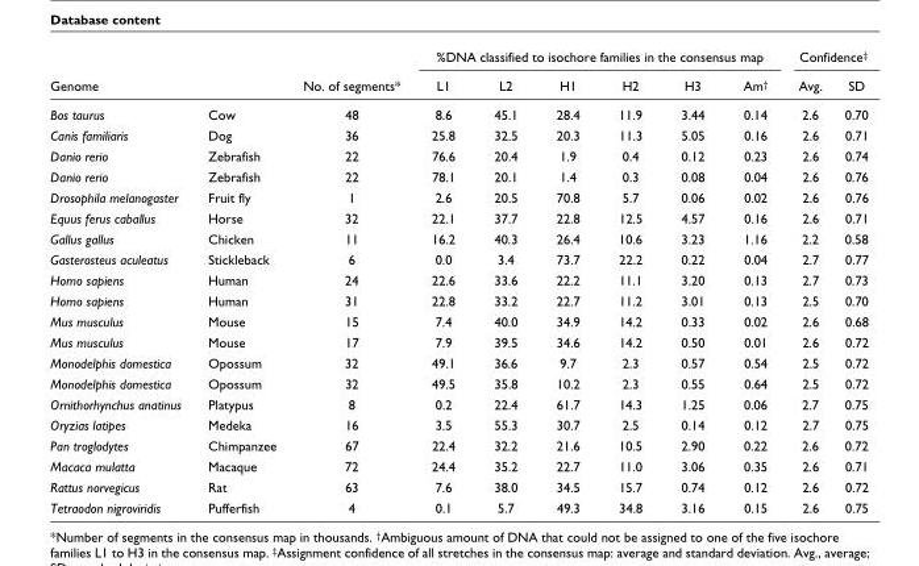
<table><thead><tr><td rowspan="2">Genome</td><td rowspan="2"></td><td rowspan="2">No. of segments*</td><td colspan="6">%DNA classified to isochore families in the consensus map</td><td colspan="2">Confidence<sup>‡</sup></td></tr><tr><td>L1</td><td>L2</td><td>H1</td><td>H2</td><td>H3</td><td>Am<sup>†</sup></td><td>Avg.</td><td>SD</td></tr></thead><tbody><tr><td>Bos taurus</td><td>Cow</td><td>48</td><td>8.6</td><td>45.1</td><td>28.4</td><td>11.9</td><td>3.44</td><td>0.14</td><td>2.6</td><td>0.70</td></tr><tr><td>Canis familiaris</td><td>Dog</td><td>36</td><td>25.8</td><td>32.5</td><td>20.3</td><td>11.3</td><td>5.05</td><td>0.16</td><td>2.6</td><td>0.71</td></tr><tr><td>Danio rerio</td><td>Zebrafish</td><td>22</td><td>76.6</td><td>20.4</td><td>1.9</td><td>0.4</td><td>0.12</td><td>0.23</td><td>2.6</td><td>0.74</td></tr><tr><td>Danio rerio</td><td>Zebrafish</td><td>22</td><td>78.1</td><td>20.1</td><td>1.4</td><td>0.3</td><td>0.08</td><td>0.04</td><td>2.6</td><td>0.76</td></tr><tr><td>Drosophila melanogaster</td><td>Fruit fly</td><td>1</td><td>2.6</td><td>20.5</td><td>70.8</td><td>5.7</td><td>0.06</td><td>0.02</td><td>2.6</td><td>0.76</td></tr><tr><td>Equus ferus caballus</td><td>Horse</td><td>32</td><td>22.1</td><td>37.7</td><td>22.8</td><td>12.5</td><td>4.57</td><td>0.16</td><td>2.6</td><td>0.71</td></tr><tr><td>Gallus gallus</td><td>Chicken</td><td>11</td><td>16.2</td><td>40.3</td><td>26.4</td><td>10.6</td><td>3.23</td><td>1.16</td><td>2.2</td><td>0.58</td></tr><tr><td>Gasterosteus aculeatus</td><td>Stickleback</td><td>6</td><td>0.0</td><td>3.4</td><td>73.7</td><td>22.2</td><td>0.22</td><td>0.04</td><td>2.7</td><td>0.77</td></tr><tr><td>Homo sapiens</td><td>Human</td><td>24</td><td>22.6</td><td>33.6</td><td>22.2</td><td>11.1</td><td>3.20</td><td>0.13</td><td>2.7</td><td>0.73</td></tr><tr><td>Homo sapiens</td><td>Human</td><td>31</td><td>22.8</td><td>33.2</td><td>22.7</td><td>11.2</td><td>3.01</td><td>0.13</td><td>2.5</td><td>0.70</td></tr><tr><td>Mus musculus</td><td>Mouse</td><td>15</td><td>7.4</td><td>40.0</td><td>34.9</td><td>14.2</td><td>0.33</td><td>0.02</td><td>2.6</td><td>0.68</td></tr><tr><td>Mus musculus</td><td>Mouse</td><td>17</td><td>7.9</td><td>39.5</td><td>34.6</td><td>14.2</td><td>0.50</td><td>0.01</td><td>2.6</td><td>0.72</td></tr><tr><td>Monodelphis domestica</td><td>Opossum</td><td>32</td><td>49.1</td><td>36.6</td><td>9.7</td><td>2.3</td><td>0.57</td><td>0.54</td><td>2.5</td><td>0.72</td></tr><tr><td>Monodelphis domestica</td><td>Opossum</td><td>32</td><td>49.5</td><td>35.8</td><td>10.2</td><td>2.3</td><td>0.55</td><td>0.64</td><td>2.5</td><td>0.72</td></tr><tr><td>Ornithorhynchus anatinus</td><td>Platypus</td><td>8</td><td>0.2</td><td>22.4</td><td>61.7</td><td>14.3</td><td>1.25</td><td>0.06</td><td>2.7</td><td>0.75</td></tr><tr><td>Oryzias latipes</td><td>Medeka</td><td>16</td><td>3.5</td><td>55.3</td><td>30.7</td><td>2.5</td><td>0.14</td><td>0.12</td><td>2.7</td><td>0.75</td></tr><tr><td>Pan troglodytes</td><td>Chimpanzee</td><td>67</td><td>22.4</td><td>32.2</td><td>21.6</td><td>10.5</td><td>2.90</td><td>0.22</td><td>2.6</td><td>0.72</td></tr><tr><td>Macaca mulatta</td><td>Macaque</td><td>72</td><td>24.4</td><td>35.2</td><td>22.7</td><td>11.0</td><td>3.06</td><td>0.35</td><td>2.6</td><td>0.71</td></tr><tr><td>Rattus norvegicus</td><td>Rat</td><td>63</td><td>7.6</td><td>38.0</td><td>34.5</td><td>15.7</td><td>0.74</td><td>0.12</td><td>2.6</td><td>0.72</td></tr><tr><td>Tetraodon nigroviridis</td><td>Pufferfish</td><td>4</td><td>0.1</td><td>5.7</td><td>49.3</td><td>34.8</td><td>3.16</td><td>0.15</td><td>2.6</td><td>0.75</td></tr></tbody></table>